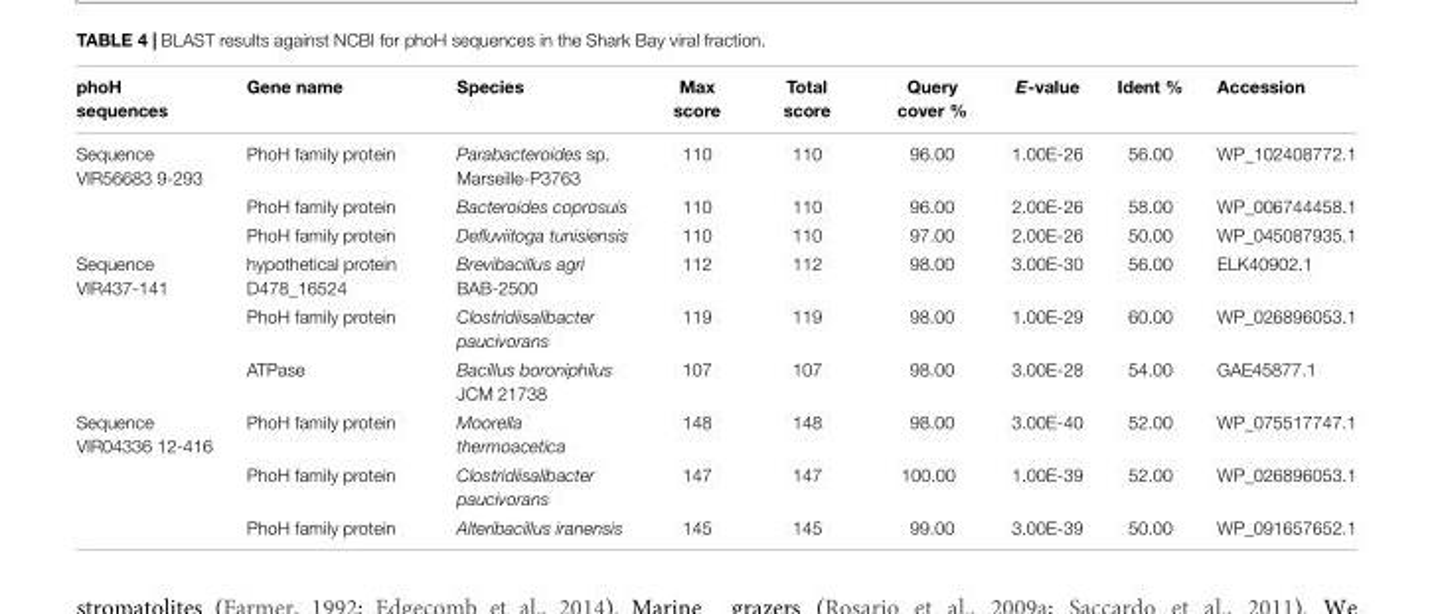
<table><thead><tr><td>phoH sequences</td><td>Gene name</td><td>Species</td><td>Max score</td><td>Total score</td><td>Query cover %</td><td>E-value</td><td>Ident %</td><td>Accession</td></tr></thead><tbody><tr><td rowspan="3">Sequence VIR56683 9-293</td><td>PhoH family protein</td><td>Parabacteroides sp. Marseille-P3763</td><td>110</td><td>110</td><td>96.00</td><td>1.00E-26</td><td>56.00</td><td>WP_102408772.1</td></tr><tr><td>PhoH family protein</td><td>Bacteroides coprosuis</td><td>110</td><td>110</td><td>96.00</td><td>2.00E-26</td><td>58.00</td><td>WP_006744458.1</td></tr><tr><td>PhoH family protein</td><td>Defluviitoga tunisiensis</td><td>110</td><td>110</td><td>97.00</td><td>2.00E-26</td><td>50.00</td><td>WP_045087935.1</td></tr><tr><td rowspan="3">Sequence VIR437-141</td><td>hypothetical protein D478_16524</td><td>Brevibacillus agri BAB-2500</td><td>112</td><td>112</td><td>98.00</td><td>3.00E-30</td><td>56.00</td><td>ELK40902.1</td></tr><tr><td>PhoH family protein</td><td>Clostridiisalibacter paucivorans</td><td>119</td><td>119</td><td>98.00</td><td>1.00E-29</td><td>60.00</td><td>WP_026896053.1</td></tr><tr><td>ATPase</td><td>Bacillus boroniphilus JCM 21738</td><td>107</td><td>107</td><td>98.00</td><td>3.00E-28</td><td>54.00</td><td>GAE45877.1</td></tr><tr><td rowspan="3">Sequence VIR04336 12-416</td><td>PhoH family protein</td><td>Moorella thermoacetica</td><td>148</td><td>148</td><td>98.00</td><td>3.00E-40</td><td>52.00</td><td>WP_075517747.1</td></tr><tr><td>PhoH family protein</td><td>Clostridiisalibacter paucivorans</td><td>147</td><td>147</td><td>100.00</td><td>1.00E-39</td><td>52.00</td><td>WP_026896053.1</td></tr><tr><td>PhoH family protein</td><td>Alteribacillus iranensis</td><td>145</td><td>145</td><td>99.00</td><td>3.00E-39</td><td>50.00</td><td>WP_091657652.1</td></tr></tbody></table>